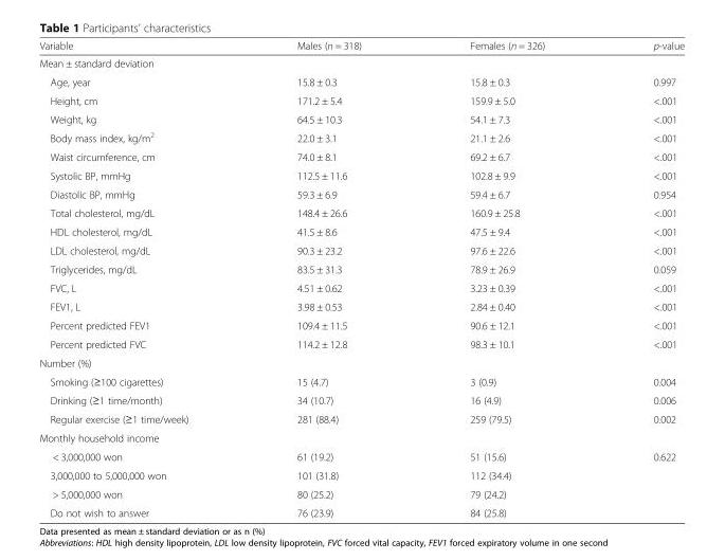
<table><thead><tr><td>Variable</td><td>Males (n = 318)</td><td>Females (n = 326)</td><td>p-value</td></tr></thead><tbody><tr><td colspan="4">Mean ± standard deviation</td></tr><tr><td>Age, year</td><td>15.8 ± 0.3</td><td>15.8 ± 0.3</td><td>0.997</td></tr><tr><td>Height, cm</td><td>171.2 ± 5.4</td><td>159.9 ± 5.0</td><td>&lt;.001</td></tr><tr><td>Weight, kg</td><td>64.5 ± 10.3</td><td>54.1 ± 7.3</td><td>&lt;.001</td></tr><tr><td>Body mass index, kg/m<sup>2</sup></td><td>22.0 ± 3.1</td><td>21.1 ± 2.6</td><td>&lt;.001</td></tr><tr><td>Waist circumference, cm</td><td>74.0 ± 8.1</td><td>69.2 ± 6.7</td><td>&lt;.001</td></tr><tr><td>Systolic BP, mmHg</td><td>112.5 ± 11.6</td><td>102.8 ± 9.9</td><td>&lt;.001</td></tr><tr><td>Diastolic BP, mmHg</td><td>59.3 ± 6.9</td><td>59.4 ± 6.7</td><td>0.954</td></tr><tr><td>Total cholesterol, mg/dL</td><td>148.4 ± 26.6</td><td>160.9 ± 25.8</td><td>&lt;.001</td></tr><tr><td>HDL cholesterol, mg/dL</td><td>41.5 ± 8.6</td><td>47.5 ± 9.4</td><td>&lt;.001</td></tr><tr><td>LDL cholesterol, mg/dL</td><td>90.3 ± 23.2</td><td>97.6 ± 22.6</td><td>&lt;.001</td></tr><tr><td>Triglycerides, mg/dL</td><td>83.5 ± 31.3</td><td>78.9 ± 26.9</td><td>0.059</td></tr><tr><td>FVC, L</td><td>4.51 ± 0.62</td><td>3.23 ± 0.39</td><td>&lt;.001</td></tr><tr><td>FEV1, L</td><td>3.98 ± 0.53</td><td>2.84 ± 0.40</td><td>&lt;.001</td></tr><tr><td>Percent predicted FEV1</td><td>109.4 ± 11.5</td><td>90.6 ± 12.1</td><td>&lt;.001</td></tr><tr><td>Percent predicted FVC</td><td>114.2 ± 12.8</td><td>98.3 ± 10.1</td><td>&lt;.001</td></tr><tr><td colspan="4">Number (%)</td></tr><tr><td>Smoking (≥100 cigarettes)</td><td>15 (4.7)</td><td>3 (0.9)</td><td>0.004</td></tr><tr><td>Drinking (≥1 time/month)</td><td>34 (10.7)</td><td>16 (4.9)</td><td>0.006</td></tr><tr><td>Regular exercise (≥1 time/week)</td><td>281 (88.4)</td><td>259 (79.5)</td><td>0.002</td></tr><tr><td colspan="4">Monthly household income</td></tr><tr><td>&lt; 3,000,000 won</td><td>61 (19.2)</td><td>51 (15.6)</td><td>0.622</td></tr><tr><td>3,000,000 to 5,000,000 won</td><td>101 (31.8)</td><td>112 (34.4)</td><td></td></tr><tr><td>&gt; 5,000,000 won</td><td>80 (25.2)</td><td>79 (24.2)</td><td></td></tr><tr><td>Do not wish to answer</td><td>76 (23.9)</td><td>84 (25.8)</td><td></td></tr></tbody></table>